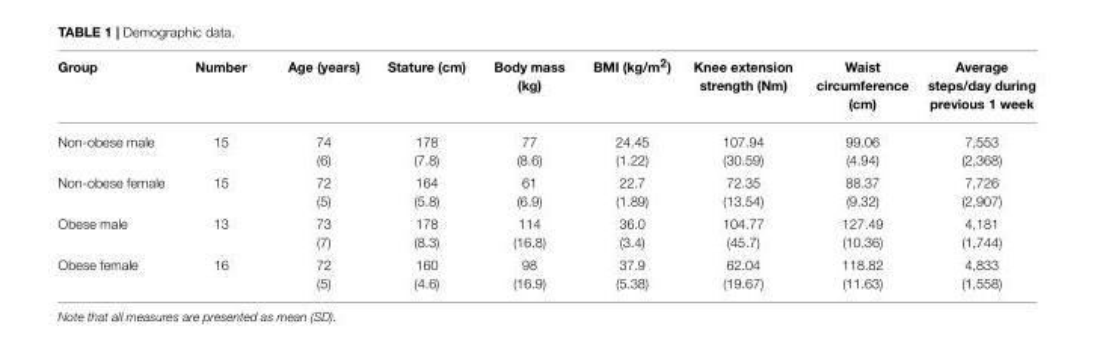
<table><thead><tr><td>Group</td><td>Number</td><td>Age (years)</td><td>Stature (cm)</td><td>Body mass (kg)</td><td>BMI (kg/m<sup>2</sup>)</td><td>Knee extension strength (Nm)</td><td>Waist circumference (cm)</td><td>Average steps/day during previous 1 week</td></tr></thead><tbody><tr><td>Non-obese male</td><td>15</td><td>74 (6)</td><td>178 (7.8)</td><td>77 (8.6)</td><td>24.45 (1.22)</td><td>107.94 (30.59)</td><td>99.06 (4.94)</td><td>7,553 (2,368)</td></tr><tr><td>Non-obese female</td><td>15</td><td>72 (5)</td><td>164 (5.8)</td><td>61 (6.9)</td><td>22.7 (1.89)</td><td>72.35 (13.54)</td><td>88.37 (9.32)</td><td>7,726 (2,907)</td></tr><tr><td>Obese male</td><td>13</td><td>73 (7)</td><td>178 (8.3)</td><td>114 (16.8)</td><td>36.0 (3.4)</td><td>104.77 (45.7)</td><td>127.49 (10.36)</td><td>4,181 (1,744)</td></tr><tr><td>Obese female</td><td>16</td><td>72 (5)</td><td>160 (4.6)</td><td>98 (16.9)</td><td>37.9 (5.38)</td><td>62.04 (19.67)</td><td>118.82 (11.63)</td><td>4,833 (1,558)</td></tr></tbody></table>